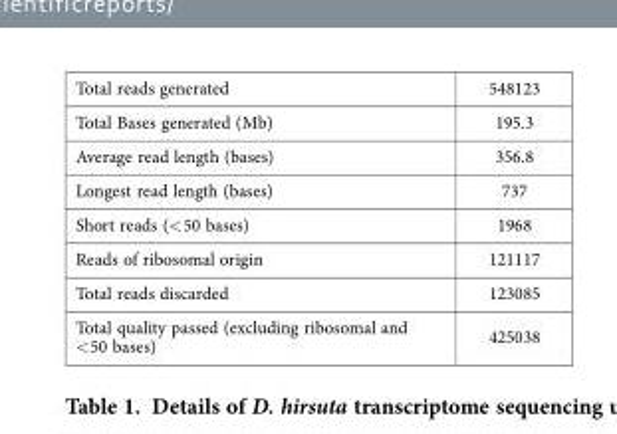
<table><tbody><tr><td>Total reads generated</td><td>548123</td></tr><tr><td>Total Bases generated (Mb)</td><td>195.3</td></tr><tr><td>Average read length (bases)</td><td>356.8</td></tr><tr><td>Longest read length (bases)</td><td>737</td></tr><tr><td>Short reads (&lt; 50 bases)</td><td>1968</td></tr><tr><td>Reads of ribosomal origin</td><td>121117</td></tr><tr><td>Total reads discarded</td><td>123085</td></tr><tr><td>Total quality passed (excluding ribosomal and &lt; 50 bases)</td><td>425038</td></tr></tbody></table>